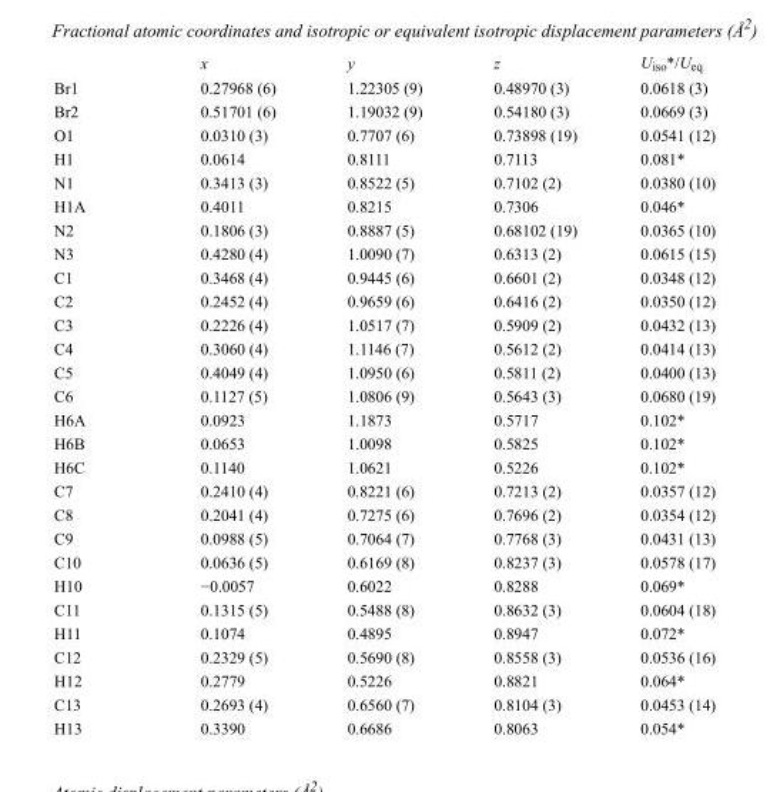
<table><thead><tr><td></td><td>x</td><td>y</td><td>z</td><td>U<sub>iso</sub>*/U<sub>eq</sub></td></tr></thead><tbody><tr><td>Br1</td><td>0.27968 (6)</td><td>1.22305 (9)</td><td>0.48970 (3)</td><td>0.0618 (3)</td></tr><tr><td>Br2</td><td>0.51701 (6)</td><td>1.19032 (9)</td><td>0.54180 (3)</td><td>0.0669 (3)</td></tr><tr><td>O1</td><td>0.0310 (3)</td><td>0.7707 (6)</td><td>0.73898 (19)</td><td>0.0541 (12)</td></tr><tr><td>H1</td><td>0.0614</td><td>0.8111</td><td>0.7113</td><td>0.081*</td></tr><tr><td>N1</td><td>0.3413 (3)</td><td>0.8522 (5)</td><td>0.7102 (2)</td><td>0.0380 (10)</td></tr><tr><td>H1A</td><td>0.4011</td><td>0.8215</td><td>0.7306</td><td>0.046*</td></tr><tr><td>N2</td><td>0.1806 (3)</td><td>0.8887 (5)</td><td>0.68102 (19)</td><td>0.0365 (10)</td></tr><tr><td>N3</td><td>0.4280 (4)</td><td>1.0090 (7)</td><td>0.6313 (2)</td><td>0.0615 (15)</td></tr><tr><td>C1</td><td>0.3468 (4)</td><td>0.9445 (6)</td><td>0.6601 (2)</td><td>0.0348 (12)</td></tr><tr><td>C2</td><td>0.2452 (4)</td><td>0.9659 (6)</td><td>0.6416 (2)</td><td>0.0350 (12)</td></tr><tr><td>C3</td><td>0.2226 (4)</td><td>1.0517 (7)</td><td>0.5909 (2)</td><td>0.0432 (13)</td></tr><tr><td>C4</td><td>0.3060 (4)</td><td>1.1146 (7)</td><td>0.5612 (2)</td><td>0.0414 (13)</td></tr><tr><td>C5</td><td>0.4049 (4)</td><td>1.0950 (6)</td><td>0.5811 (2)</td><td>0.0400 (13)</td></tr><tr><td>C6</td><td>0.1127 (5)</td><td>1.0806 (9)</td><td>0.5643 (3)</td><td>0.0680 (19)</td></tr><tr><td>H6A</td><td>0.0923</td><td>1.1873</td><td>0.5717</td><td>0.102*</td></tr><tr><td>H6B</td><td>0.0653</td><td>1.0098</td><td>0.5825</td><td>0.102*</td></tr><tr><td>H6C</td><td>0.1140</td><td>1.0621</td><td>0.5226</td><td>0.102*</td></tr><tr><td>C7</td><td>0.2410 (4)</td><td>0.8221 (6)</td><td>0.7213 (2)</td><td>0.0357 (12)</td></tr><tr><td>C8</td><td>0.2041 (4)</td><td>0.7275 (6)</td><td>0.7696 (2)</td><td>0.0354 (12)</td></tr><tr><td>C9</td><td>0.0988 (5)</td><td>0.7064 (7)</td><td>0.7768 (3)</td><td>0.0431 (13)</td></tr><tr><td>C10</td><td>0.0636 (5)</td><td>0.6169 (8)</td><td>0.8237 (3)</td><td>0.0578 (17)</td></tr><tr><td>H10</td><td>−0.0057</td><td>0.6022</td><td>0.8288</td><td>0.069*</td></tr><tr><td>C11</td><td>0.1315 (5)</td><td>0.5488 (8)</td><td>0.8632 (3)</td><td>0.0604 (18)</td></tr><tr><td>H11</td><td>0.1074</td><td>0.4895</td><td>0.8947</td><td>0.072*</td></tr><tr><td>C12</td><td>0.2329 (5)</td><td>0.5690 (8)</td><td>0.8558 (3)</td><td>0.0536 (16)</td></tr><tr><td>H12</td><td>0.2779</td><td>0.5226</td><td>0.8821</td><td>0.064*</td></tr><tr><td>C13</td><td>0.2693 (4)</td><td>0.6560 (7)</td><td>0.8104 (3)</td><td>0.0453 (14)</td></tr><tr><td>H13</td><td>0.3390</td><td>0.6686</td><td>0.8063</td><td>0.054*</td></tr></tbody></table>